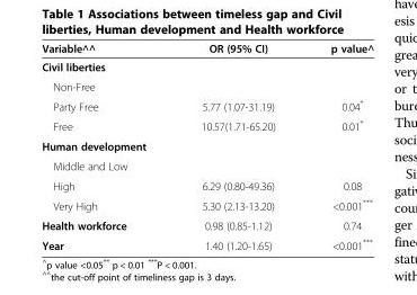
<table><thead><tr><td>Variable^^</td><td>OR (95% CI)</td><td>p value^</td></tr></thead><tbody><tr><td colspan="3">Civil liberties</td></tr><tr><td colspan="3">Non-Free</td></tr><tr><td>Party Free</td><td>5.77 (1.07-31.19)</td><td>0.04*</td></tr><tr><td>Free</td><td>10.57(1.71-65.20)</td><td>0.01*</td></tr><tr><td colspan="3">Human development</td></tr><tr><td colspan="3">Middle and Low</td></tr><tr><td>High</td><td>6.29 (0.80-49.36)</td><td>0.08</td></tr><tr><td>Very High</td><td>5.30 (2.13-13.20)</td><td>&lt;0.001***</td></tr><tr><td>Health workforce</td><td>0.98 (0.85-1.12)</td><td>0.74</td></tr><tr><td>Year</td><td>1.40 (1.20-1.65)</td><td>&lt;0.001***</td></tr></tbody></table>